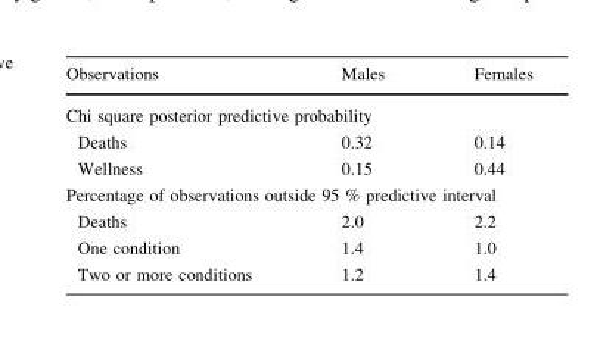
<table><thead><tr><td>Observations</td><td>Males</td><td>Females</td></tr></thead><tbody><tr><td colspan="3">Chi square posterior predictive probability</td></tr><tr><td>Deaths</td><td>0.32</td><td>0.14</td></tr><tr><td>Wellness</td><td>0.15</td><td>0.44</td></tr><tr><td colspan="3">Percentage of observations outside 95 % predictive interval</td></tr><tr><td>Deaths</td><td>2.0</td><td>2.2</td></tr><tr><td>One condition</td><td>1.4</td><td>1.0</td></tr><tr><td>Two or more conditions</td><td>1.2</td><td>1.4</td></tr></tbody></table>